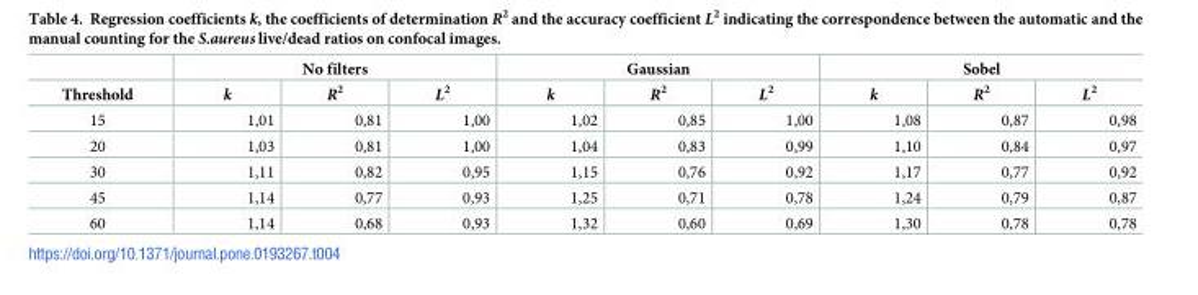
<table><thead><tr><td rowspan="2">Threshold</td><td colspan="3">No filters</td><td colspan="3">Gaussian</td><td colspan="3">Sobel</td></tr><tr><td>k</td><td>R<sup>2</sup></td><td>L<sup>2</sup></td><td>k</td><td>R<sup>2</sup></td><td>L<sup>2</sup></td><td>k</td><td>R<sup>2</sup></td><td>L<sup>2</sup></td></tr></thead><tbody><tr><td>15</td><td>1,01</td><td>0,81</td><td>1,00</td><td>1,02</td><td>0,85</td><td>1,00</td><td>1,08</td><td>0,87</td><td>0,98</td></tr><tr><td>20</td><td>1,03</td><td>0,81</td><td>1,00</td><td>1,04</td><td>0,83</td><td>0,99</td><td>1,10</td><td>0,84</td><td>0,97</td></tr><tr><td>30</td><td>1,11</td><td>0,82</td><td>0,95</td><td>1,15</td><td>0,76</td><td>0,92</td><td>1,17</td><td>0,77</td><td>0,92</td></tr><tr><td>45</td><td>1,14</td><td>0,77</td><td>0,93</td><td>1,25</td><td>0,71</td><td>0,78</td><td>1,24</td><td>0,79</td><td>0,87</td></tr><tr><td>60</td><td>1,14</td><td>0,68</td><td>0,93</td><td>1,32</td><td>0,60</td><td>0,69</td><td>1,30</td><td>0,78</td><td>0,78</td></tr></tbody></table>